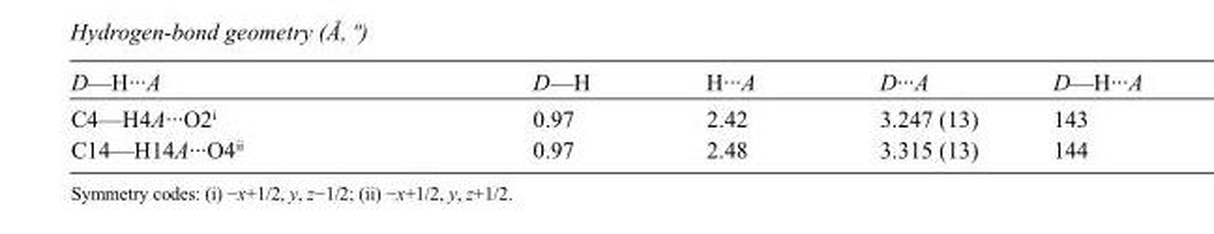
<table><tbody><tr><td>D—H···A</td><td>D—H</td><td>H···A</td><td>D···A</td><td>D—H···A</td></tr><tr><td>C4—H4A···O2<sup>i</sup></td><td>0.97</td><td>2.42</td><td>3.247 (13)</td><td>143</td></tr><tr><td>C14—H14A···O4<sup>ii</sup></td><td>0.97</td><td>2.48</td><td>3.315 (13)</td><td>144</td></tr></tbody></table>